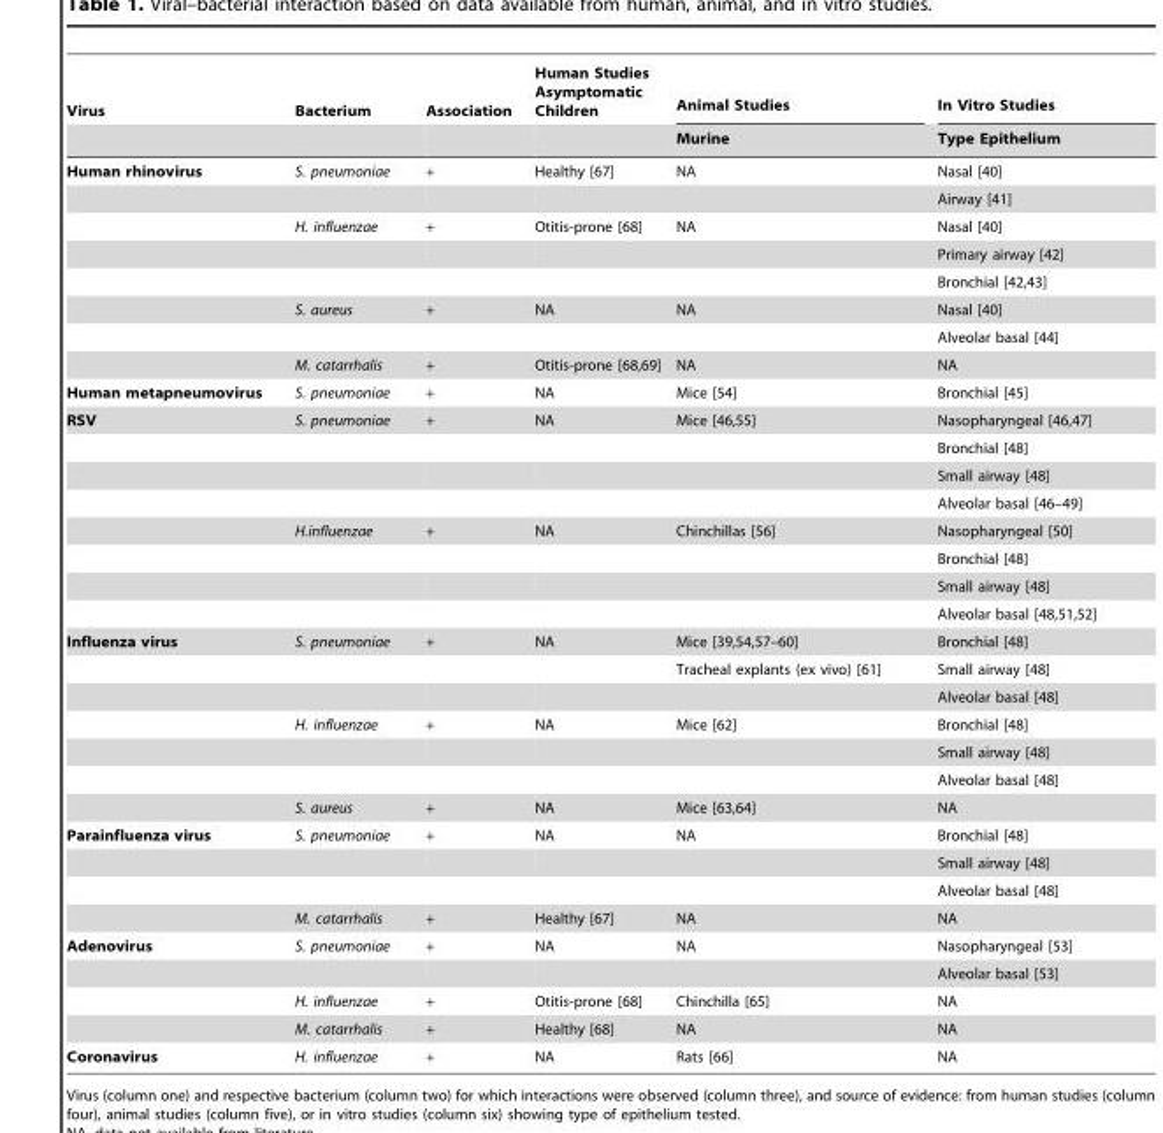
<table><thead><tr><td rowspan="2">Virus</td><td rowspan="2">Bacterium</td><td rowspan="2">Association</td><td rowspan="2">Human Studies Asymptomatic Children</td><td rowspan="2">Animal Studies Murine</td><td rowspan="2">In Vitro Studies Type Epithelium</td></tr><tr></tr></thead><tbody><tr><td rowspan="8">Human rhinovirus</td><td>S. pneumoniae</td><td>+</td><td>Healthy [67]</td><td>NA</td><td>Nasal [40]</td></tr><tr><td></td><td></td><td></td><td></td><td>Airway [41]</td></tr><tr><td>H. influenzae</td><td>+</td><td>Otitis-prone [68]</td><td>NA</td><td>Nasal [40]</td></tr><tr><td></td><td></td><td></td><td></td><td>Primary airway [42]</td></tr><tr><td></td><td></td><td></td><td></td><td>Bronchial [42,43]</td></tr><tr><td>S. aureus</td><td>+</td><td>NA</td><td>NA</td><td>Nasal [40]</td></tr><tr><td></td><td></td><td></td><td></td><td>Alveolar basal [44]</td></tr><tr><td>M. catarrhalis</td><td>+</td><td>Otitis-prone [68,69]</td><td>NA</td><td>NA</td></tr><tr><td>Human metapneumovirus</td><td>S. pneumoniae</td><td>+</td><td>NA</td><td>Mice [54]</td><td>Bronchial [45]</td></tr><tr><td rowspan="8">RSV</td><td>S. pneumoniae</td><td>+</td><td>NA</td><td>Mice [46,55]</td><td>Nasopharyngeal [46,47]</td></tr><tr><td></td><td></td><td></td><td></td><td>Bronchial [48]</td></tr><tr><td></td><td></td><td></td><td></td><td>Small airway [48]</td></tr><tr><td></td><td></td><td></td><td></td><td>Alveolar basal [46–49]</td></tr><tr><td>H.influenzae</td><td>+</td><td>NA</td><td>Chinchillas [56]</td><td>Nasopharyngeal [50]</td></tr><tr><td></td><td></td><td></td><td></td><td>Bronchial [48]</td></tr><tr><td></td><td></td><td></td><td></td><td>Small airway [48]</td></tr><tr><td></td><td></td><td></td><td></td><td>Alveolar basal [48,51,52]</td></tr><tr><td rowspan="7">Influenza virus</td><td>S. pneumoniae</td><td>+</td><td>NA</td><td>Mice [39,54,57–60]</td><td>Bronchial [48]</td></tr><tr><td></td><td></td><td></td><td>Tracheal explants (ex vivo) [61]</td><td>Small airway [48]</td></tr><tr><td></td><td></td><td></td><td></td><td>Alveolar basal [48]</td></tr><tr><td>H. influenzae</td><td>+</td><td>NA</td><td>Mice [62]</td><td>Bronchial [48]</td></tr><tr><td></td><td></td><td></td><td></td><td>Small airway [48]</td></tr><tr><td></td><td></td><td></td><td></td><td>Alveolar basal [48]</td></tr><tr><td>S. aureus</td><td>+</td><td>NA</td><td>Mice [63,64]</td><td>NA</td></tr><tr><td rowspan="4">Parainfluenza virus</td><td>S. pneumoniae</td><td>+</td><td>NA</td><td>NA</td><td>Bronchial [48]</td></tr><tr><td></td><td></td><td></td><td></td><td>Small airway [48]</td></tr><tr><td></td><td></td><td></td><td></td><td>Alveolar basal [48]</td></tr><tr><td>M. catarrhalis</td><td>+</td><td>Healthy [67]</td><td>NA</td><td>NA</td></tr><tr><td rowspan="4">Adenovirus</td><td>S. pneumoniae</td><td>+</td><td>NA</td><td>NA</td><td>Nasopharyngeal [53]</td></tr><tr><td></td><td></td><td></td><td></td><td>Alveolar basal [53]</td></tr><tr><td>H. influenzae</td><td>+</td><td>Otitis-prone [68]</td><td>Chinchilla [65]</td><td>NA</td></tr><tr><td>M. catarrhalis</td><td>+</td><td>Healthy [68]</td><td>NA</td><td>NA</td></tr><tr><td>Coronavirus</td><td>H. influenzae</td><td>+</td><td>NA</td><td>Rats [66]</td><td>NA</td></tr></tbody></table>